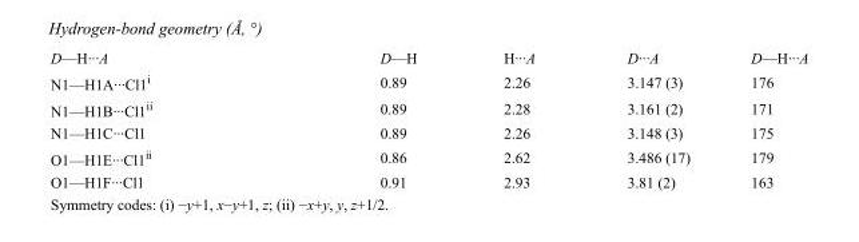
<table><tbody><tr><td>D—H···A</td><td>D—H</td><td>H···A</td><td>D···A</td><td>D—H···A</td></tr><tr><td>N1—H1A···Cl1<sup>i</sup></td><td>0.89</td><td>2.26</td><td>3.147 (3)</td><td>176</td></tr><tr><td>N1—H1B···Cl1<sup>ii</sup></td><td>0.89</td><td>2.28</td><td>3.161 (2)</td><td>171</td></tr><tr><td>N1—H1C···Cl1</td><td>0.89</td><td>2.26</td><td>3.148 (3)</td><td>175</td></tr><tr><td>O1—H1E···Cl1<sup>ii</sup></td><td>0.86</td><td>2.62</td><td>3.486 (17)</td><td>179</td></tr><tr><td>O1—H1F···Cl1</td><td>0.91</td><td>2.93</td><td>3.81 (2)</td><td>163</td></tr></tbody></table>